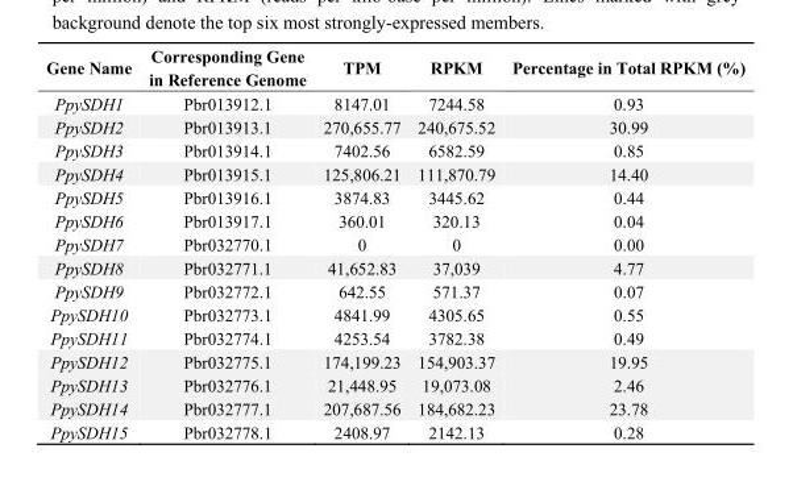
<table><thead><tr><td>Gene Name</td><td>Corresponding Gene in Reference Genome</td><td>TPM</td><td>RPKM</td><td>Percentage in Total RPKM (%)</td></tr></thead><tbody><tr><td>PpySDH1</td><td>Pbr013912.1</td><td>8147.01</td><td>7244.58</td><td>0.93</td></tr><tr><td>PpySDH2</td><td>Pbr013913.1</td><td>270,655.77</td><td>240,675.52</td><td>30.99</td></tr><tr><td>PpySDH3</td><td>Pbr013914.1</td><td>7402.56</td><td>6582.59</td><td>0.85</td></tr><tr><td>PpySDH4</td><td>Pbr013915.1</td><td>125,806.21</td><td>111,870.79</td><td>14.40</td></tr><tr><td>PpySDH5</td><td>Pbr013916.1</td><td>3874.83</td><td>3445.62</td><td>0.44</td></tr><tr><td>PpySDH6</td><td>Pbr013917.1</td><td>360.01</td><td>320.13</td><td>0.04</td></tr><tr><td>PpySDH7</td><td>Pbr032770.1</td><td>0</td><td>0</td><td>0.00</td></tr><tr><td>PpySDH8</td><td>Pbr032771.1</td><td>41,652.83</td><td>37,039</td><td>4.77</td></tr><tr><td>PpySDH9</td><td>Pbr032772.1</td><td>642.55</td><td>571.37</td><td>0.07</td></tr><tr><td>PpySDH10</td><td>Pbr032773.1</td><td>4841.99</td><td>4305.65</td><td>0.55</td></tr><tr><td>PpySDH11</td><td>Pbr032774.1</td><td>4253.54</td><td>3782.38</td><td>0.49</td></tr><tr><td>PpySDH12</td><td>Pbr032775.1</td><td>174,199.23</td><td>154,903.37</td><td>19.95</td></tr><tr><td>PpySDH13</td><td>Pbr032776.1</td><td>21,448.95</td><td>19,073.08</td><td>2.46</td></tr><tr><td>PpySDH14</td><td>Pbr032777.1</td><td>207,687.56</td><td>184,682.23</td><td>23.78</td></tr><tr><td>PpySDH15</td><td>Pbr032778.1</td><td>2408.97</td><td>2142.13</td><td>0.28</td></tr></tbody></table>